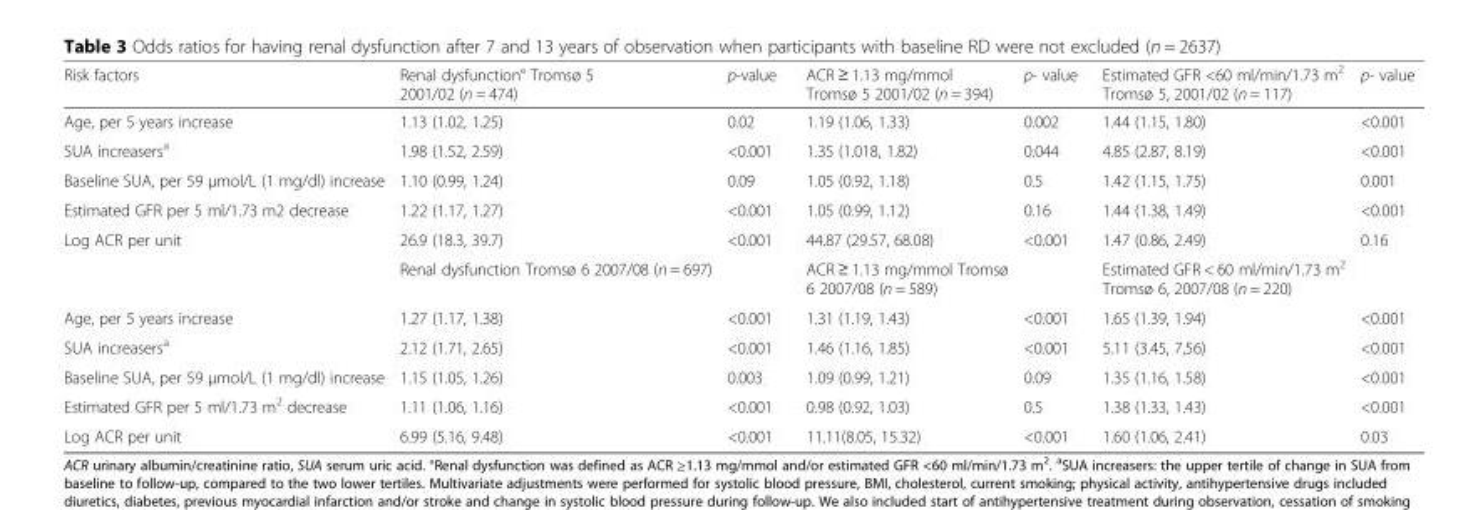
<table><thead><tr><td>Risk factors</td><td>Renal dysfunction° Tromsø 5 2001/02 (n = 474)</td><td>p-value</td><td>ACR ≥ 1.13 mg/mmol Tromsø 5 2001/02 (n = 394)</td><td>p- value</td><td>Estimated GFR &lt;60 ml/min/1.73 m<sup>2</sup> Tromsø 5, 2001/02 (n = 117)</td><td>p- value</td></tr></thead><tbody><tr><td>Age, per 5 years increase</td><td>1.13 (1.02, 1.25)</td><td>0.02</td><td>1.19 (1.06, 1.33)</td><td>0.002</td><td>1.44 (1.15, 1.80)</td><td>&lt;0.001</td></tr><tr><td>SUA increasers<sup>a</sup></td><td>1.98 (1.52, 2.59)</td><td>&lt;0.001</td><td>1.35 (1.018, 1.82)</td><td>0.044</td><td>4.85 (2.87, 8.19)</td><td>&lt;0.001</td></tr><tr><td>Baseline SUA, per 59 μmol/L (1 mg/dl) increase</td><td>1.10 (0.99, 1.24)</td><td>0.09</td><td>1.05 (0.92, 1.18)</td><td>0.5</td><td>1.42 (1.15, 1.75)</td><td>0.001</td></tr><tr><td>Estimated GFR per 5 ml/1.73 m2 decrease</td><td>1.22 (1.17, 1.27)</td><td>&lt;0.001</td><td>1.05 (0.99, 1.12)</td><td>0.16</td><td>1.44 (1.38, 1.49)</td><td>&lt;0.001</td></tr><tr><td rowspan="2">Log ACR per unit</td><td>26.9 (18.3, 39.7)</td><td>&lt;0.001</td><td>44.87 (29.57, 68.08)</td><td>&lt;0.001</td><td>1.47 (0.86, 2.49)</td><td>0.16</td></tr><tr><td>Renal dysfunction Tromsø 6 2007/08 (n = 697)</td><td></td><td>ACR ≥ 1.13 mg/mmol Tromsø 6 2007/08 (n = 589)</td><td></td><td>Estimated GFR &lt; 60 ml/min/1.73 m<sup>2</sup> Tromsø 6, 2007/08 (n = 220)</td><td></td></tr><tr><td>Age, per 5 years increase</td><td>1.27 (1.17, 1.38)</td><td>&lt;0.001</td><td>1.31 (1.19, 1.43)</td><td>&lt;0.001</td><td>1.65 (1.39, 1.94)</td><td>&lt;0.001</td></tr><tr><td>SUA increasers<sup>a</sup></td><td>2.12 (1.71, 2.65)</td><td>&lt;0.001</td><td>1.46 (1.16, 1.85)</td><td>&lt;0.001</td><td>5.11 (3.45, 7,56)</td><td>&lt;0.001</td></tr><tr><td>Baseline SUA, per 59 μmol/L (1 mg/dl) increase</td><td>1.15 (1.05, 1.26)</td><td>0.003</td><td>1.09 (0.99, 1.21)</td><td>0.09</td><td>1.35 (1.16, 1.58)</td><td>&lt;0.001</td></tr><tr><td>Estimated GFR per 5 ml/1.73 m<sup>2</sup> decrease</td><td>1.11 (1.06, 1.16)</td><td>&lt;0.001</td><td>0.98 (0.92, 1.03)</td><td>0.5</td><td>1.38 (1.33, 1.43)</td><td>&lt;0.001</td></tr><tr><td>Log ACR per unit</td><td>6.99 (5.16, 9.48)</td><td>&lt;0.001</td><td>11.11(8.05, 15.32)</td><td>&lt;0.001</td><td>1.60 (1.06, 2.41)</td><td>0.03</td></tr></tbody></table>